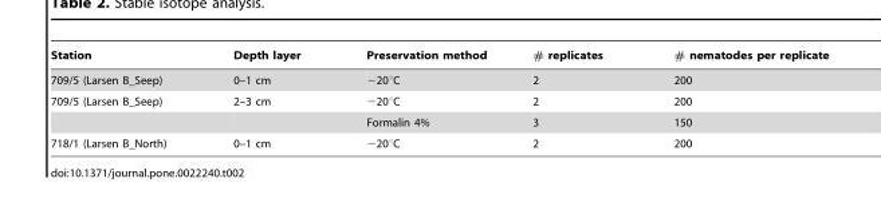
<table><thead><tr><td>Station</td><td>Depth layer</td><td>Preservation method</td><td># replicates</td><td># nematodes per replicate</td></tr></thead><tbody><tr><td>709/5 (Larsen B_Seep)</td><td>0–1 cm</td><td>−20°C</td><td>2</td><td>200</td></tr><tr><td rowspan="2">709/5 (Larsen B_Seep)</td><td>2–3 cm</td><td>−20°C</td><td>2</td><td>200</td></tr><tr><td></td><td>Formalin 4%</td><td>3</td><td>150</td></tr><tr><td>718/1 (Larsen B_North)</td><td>0–1 cm</td><td>−20°C</td><td>2</td><td>200</td></tr></tbody></table>